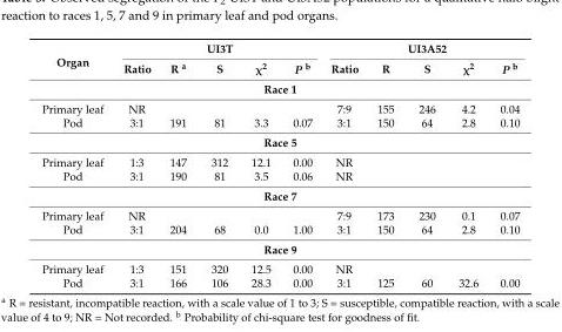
<table><thead><tr><td rowspan="2">Organ</td><td colspan="5">UI3T</td><td colspan="5">UI3A52</td></tr><tr><td>Ratio</td><td>R <sup>a</sup></td><td>S</td><td>χ<sup>2</sup></td><td>P <sup>b</sup></td><td>Ratio</td><td>R</td><td>S</td><td>χ<sup>2</sup></td><td>P <sup>b</sup></td></tr></thead><tbody><tr><td colspan="11">Race 1</td></tr><tr><td>Primary leaf</td><td>NR</td><td></td><td></td><td></td><td></td><td>7:9</td><td>155</td><td>246</td><td>4.2</td><td>0.04</td></tr><tr><td>Pod</td><td>3:1</td><td>191</td><td>81</td><td>3.3</td><td>0.07</td><td>3:1</td><td>150</td><td>64</td><td>2.8</td><td>0.10</td></tr><tr><td colspan="11">Race 5</td></tr><tr><td>Primary leaf</td><td>1:3</td><td>147</td><td>312</td><td>12.1</td><td>0.00</td><td>NR</td><td></td><td></td><td></td><td></td></tr><tr><td>Pod</td><td>3:1</td><td>190</td><td>81</td><td>3.5</td><td>0.06</td><td>NR</td><td></td><td></td><td></td><td></td></tr><tr><td colspan="11">Race 7</td></tr><tr><td>Primary leaf</td><td>NR</td><td></td><td></td><td></td><td></td><td>7:9</td><td>173</td><td>230</td><td>0.1</td><td>0.07</td></tr><tr><td>Pod</td><td>3:1</td><td>204</td><td>68</td><td>0.0</td><td>1.00</td><td>3:1</td><td>150</td><td>64</td><td>2.8</td><td>0.10</td></tr><tr><td colspan="11">Race 9</td></tr><tr><td>Primary leaf</td><td>1:3</td><td>151</td><td>320</td><td>12.5</td><td>0.00</td><td>NR</td><td></td><td></td><td></td><td></td></tr><tr><td>Pod</td><td>3:1</td><td>166</td><td>106</td><td>28.3</td><td>0.00</td><td>3:1</td><td>125</td><td>60</td><td>32.6</td><td>0.00</td></tr></tbody></table>